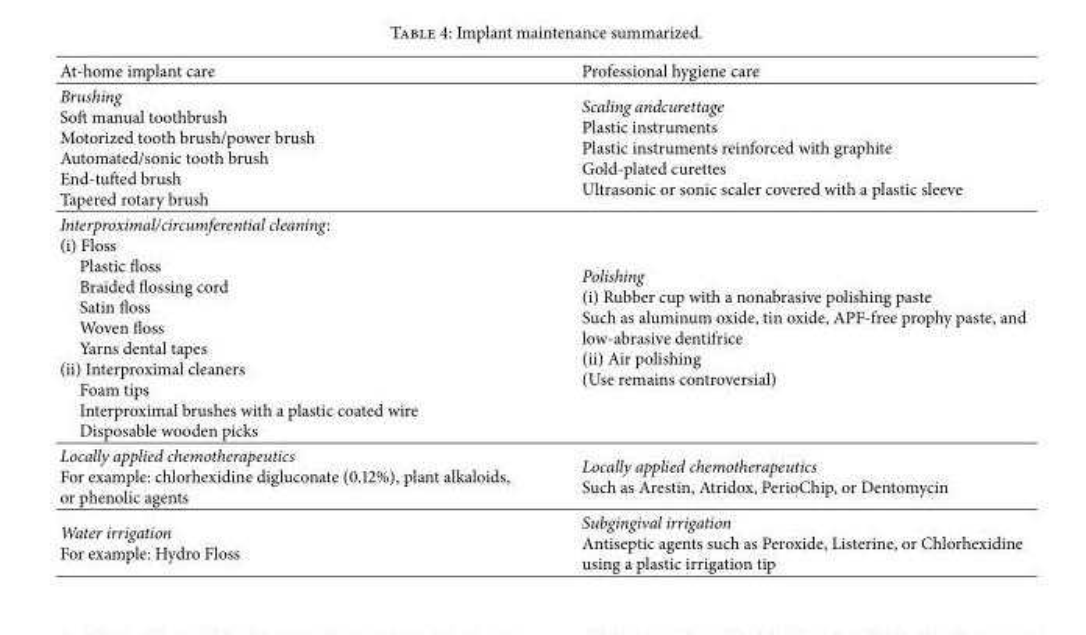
<table><thead><tr><td>At-home implant care</td><td>Professional hygiene care</td></tr></thead><tbody><tr><td>Brushing Soft manual toothbrush Motorized tooth brush/power brush Automated/sonic tooth brush End-tufted brush Tapered rotary brush</td><td>Scaling andcurettage Plastic instruments Plastic instruments reinforced with graphite Gold-plated curettes Ultrasonic or sonic scaler covered with a plastic sleeve</td></tr><tr><td>Interproximal/circumferential cleaning: (i) Floss Plastic floss Braided flossing cord Satin floss Woven floss Yarns dental tapes (ii) Interproximal cleaners Foam tips Interproximal brushes with a plastic coated wire Disposable wooden picks</td><td>Polishing (i) Rubber cup with a nonabrasive polishing paste Such as aluminum oxide, tin oxide, APF-free prophy paste, and low-abrasive dentifrice (ii) Air polishing (Use remains controversial)</td></tr><tr><td>Locally applied chemotherapeutics For example: chlorhexidine digluconate (0.12%), plant alkaloids, or phenolic agents</td><td>Locally applied chemotherapeutics Such as Arestin, Atridox, PerioChip, or Dentomycin</td></tr><tr><td>Water irrigation For example: Hydro Floss</td><td>Subgingival irrigation Antiseptic agents such as Peroxide, Listerine, or Chlorhexidine using a plastic irrigation tip</td></tr></tbody></table>